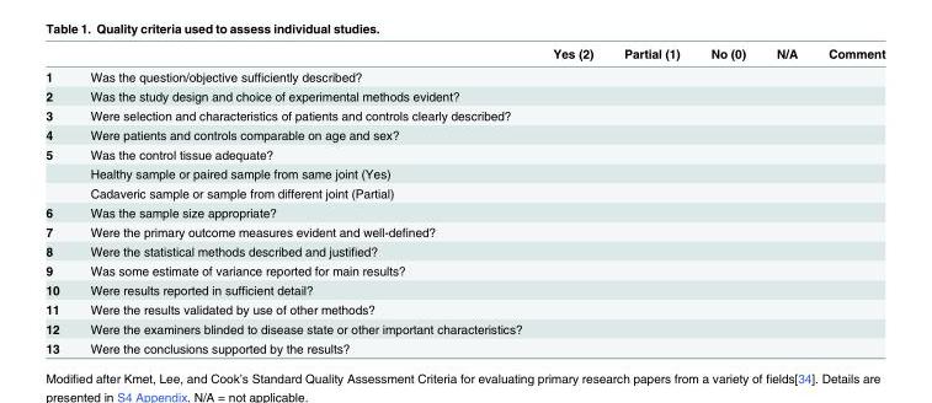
<table><thead><tr><td></td><td></td><td>Yes (2)</td><td>Partial (1)</td><td>No (0)</td><td>N/A</td><td>Comment</td></tr></thead><tbody><tr><td>1</td><td>Was the question/objective sufficiently described?</td><td></td><td></td><td></td><td></td><td></td></tr><tr><td>2</td><td>Was the study design and choice of experimental methods evident?</td><td></td><td></td><td></td><td></td><td></td></tr><tr><td>3</td><td>Were selection and characteristics of patients and controls clearly described?</td><td></td><td></td><td></td><td></td><td></td></tr><tr><td>4</td><td>Were patients and controls comparable on age and sex?</td><td></td><td></td><td></td><td></td><td></td></tr><tr><td rowspan="3">5</td><td>Was the control tissue adequate?</td><td></td><td></td><td></td><td></td><td></td></tr><tr><td>Healthy sample or paired sample from same joint (Yes)</td><td></td><td></td><td></td><td></td><td></td></tr><tr><td>Cadaveric sample or sample from different joint (Partial)</td><td></td><td></td><td></td><td></td><td></td></tr><tr><td>6</td><td>Was the sample size appropriate?</td><td></td><td></td><td></td><td></td><td></td></tr><tr><td>7</td><td>Were the primary outcome measures evident and well-defined?</td><td></td><td></td><td></td><td></td><td></td></tr><tr><td>8</td><td>Were the statistical methods described and justified?</td><td></td><td></td><td></td><td></td><td></td></tr><tr><td>9</td><td>Was some estimate of variance reported for main results?</td><td></td><td></td><td></td><td></td><td></td></tr><tr><td>10</td><td>Were results reported in sufficient detail?</td><td></td><td></td><td></td><td></td><td></td></tr><tr><td>11</td><td>Were the results validated by use of other methods?</td><td></td><td></td><td></td><td></td><td></td></tr><tr><td>12</td><td>Were the examiners blinded to disease state or other important characteristics?</td><td></td><td></td><td></td><td></td><td></td></tr><tr><td>13</td><td>Were the conclusions supported by the results?</td><td></td><td></td><td></td><td></td><td></td></tr></tbody></table>